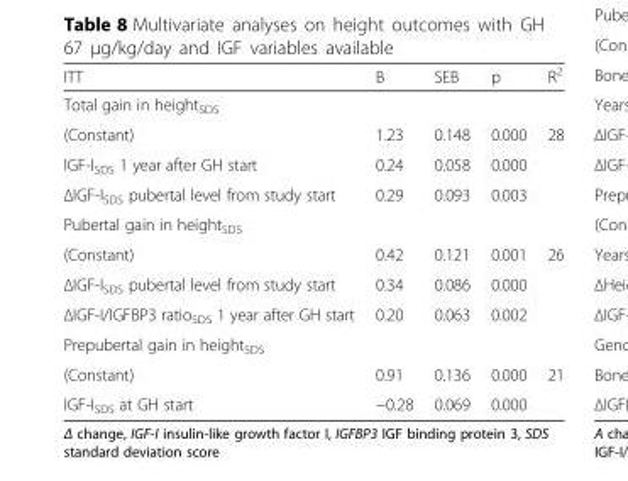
<table><thead><tr><td>ITT</td><td>B</td><td>SEB</td><td>p</td><td>R<sup>2</sup></td></tr></thead><tbody><tr><td colspan="5">Total gain in height<sub>SDS</sub></td></tr><tr><td>(Constant)</td><td>1.23</td><td>0.148</td><td>0.000</td><td>28</td></tr><tr><td>IGF-I<sub>SDS</sub> 1 year after GH start</td><td>0.24</td><td>0.058</td><td>0.000</td><td></td></tr><tr><td>ΔIGF-ISDS pubertal level from study start</td><td>0.29</td><td>0.093</td><td>0.003</td><td></td></tr><tr><td colspan="5">Pubertal gain in height<sub>SDS</sub></td></tr><tr><td>(Constant)</td><td>0.42</td><td>0.121</td><td>0.001</td><td>26</td></tr><tr><td>ΔIGF-ISDS pubertal level from study start</td><td>0.34</td><td>0.086</td><td>0.000</td><td></td></tr><tr><td>ΔIGF-I/IGFBP3 ratioSDS 1 year after GH start</td><td>0.20</td><td>0.063</td><td>0.002</td><td></td></tr><tr><td colspan="5">Prepubertal gain in height<sub>SDS</sub></td></tr><tr><td>(Constant)</td><td>0.91</td><td>0.136</td><td>0.000</td><td>21</td></tr><tr><td>IGF-I<sub>SDS</sub> at GH start</td><td>−0.28</td><td>0.069</td><td>0.000</td><td></td></tr></tbody></table>